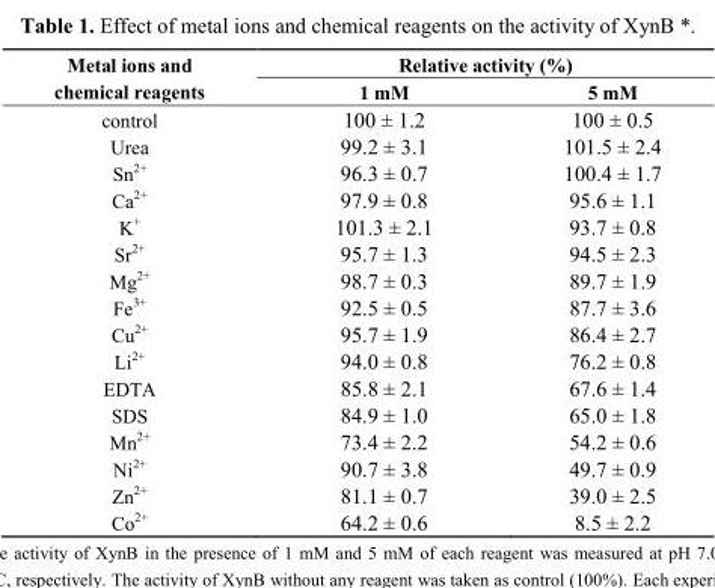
<table><thead><tr><td rowspan="2">Metal ions and chemical reagents</td><td colspan="2">Relative activity (%)</td></tr><tr><td>1 mM</td><td>5 mM</td></tr></thead><tbody><tr><td>control</td><td>100 ± 1.2</td><td>100 ± 0.5</td></tr><tr><td>Urea</td><td>99.2 ± 3.1</td><td>101.5 ± 2.4</td></tr><tr><td>Sn<sup>2+</sup></td><td>96.3 ± 0.7</td><td>100.4 ± 1.7</td></tr><tr><td>Ca<sup>2+</sup></td><td>97.9 ± 0.8</td><td>95.6 ± 1.1</td></tr><tr><td>K<sup>+</sup></td><td>101.3 ± 2.1</td><td>93.7 ± 0.8</td></tr><tr><td>Sr<sup>2+</sup></td><td>95.7 ± 1.3</td><td>94.5 ± 2.3</td></tr><tr><td>Mg<sup>2+</sup></td><td>98.7 ± 0.3</td><td>89.7 ± 1.9</td></tr><tr><td>Fe<sup>3+</sup></td><td>92.5 ± 0.5</td><td>87.7 ± 3.6</td></tr><tr><td>Cu<sup>2+</sup></td><td>95.7 ± 1.9</td><td>86.4 ± 2.7</td></tr><tr><td>Li<sup>2+</sup></td><td>94.0 ± 0.8</td><td>76.2 ± 0.8</td></tr><tr><td>EDTA</td><td>85.8 ± 2.1</td><td>67.6 ± 1.4</td></tr><tr><td>SDS</td><td>84.9 ± 1.0</td><td>65.0 ± 1.8</td></tr><tr><td>Mn<sup>2+</sup></td><td>73.4 ± 2.2</td><td>54.2 ± 0.6</td></tr><tr><td>Ni<sup>2+</sup></td><td>90.7 ± 3.8</td><td>49.7 ± 0.9</td></tr><tr><td>Zn<sup>2+</sup></td><td>81.1 ± 0.7</td><td>39.0 ± 2.5</td></tr><tr><td>Co<sup>2+</sup></td><td>64.2 ± 0.6</td><td>8.5 ± 2.2</td></tr></tbody></table>